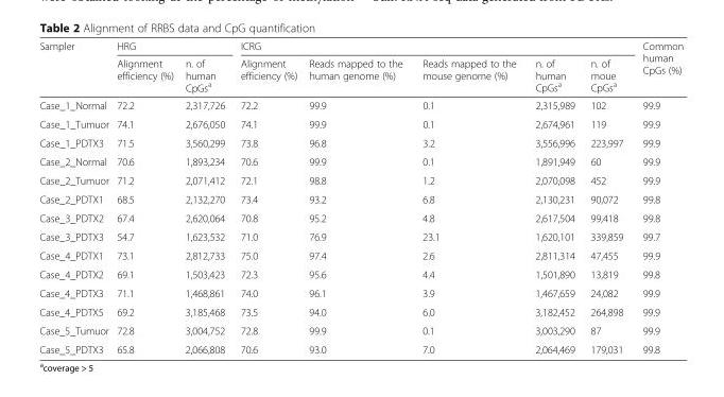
<table><thead><tr><td rowspan="2">Sampler</td><td colspan="2">HRG</td><td colspan="5">ICRG</td><td rowspan="2">Common human CpGs (%)</td></tr><tr><td>Alignment efficiency (%)</td><td>n. of human CpGs<sup>a</sup></td><td>Alignment efficiency (%)</td><td>Reads mapped to the human genome (%)</td><td>Reads mapped to the mouse genome (%)</td><td>n. of human CpGs<sup>a</sup></td><td>n. of moue CpGs<sup>a</sup></td></tr></thead><tbody><tr><td>Case_1_Normal</td><td>72.2</td><td>2,317,726</td><td>72.2</td><td>99.9</td><td>0.1</td><td>2,315,989</td><td>102</td><td>99.9</td></tr><tr><td>Case_1_Tumuor</td><td>74.1</td><td>2,676,050</td><td>74.1</td><td>99.9</td><td>0.1</td><td>2,674,961</td><td>119</td><td>99.9</td></tr><tr><td>Case_1_PDTX3</td><td>71.5</td><td>3,560,299</td><td>73.8</td><td>96.8</td><td>3.2</td><td>3,556,996</td><td>223,997</td><td>99.9</td></tr><tr><td>Case_2_Normal</td><td>70.6</td><td>1,893,234</td><td>70.6</td><td>99.9</td><td>0.1</td><td>1,891,949</td><td>60</td><td>99.9</td></tr><tr><td>Case_2_Tumuor</td><td>71.2</td><td>2,071,412</td><td>72.1</td><td>98.8</td><td>1.2</td><td>2,070,098</td><td>452</td><td>99.9</td></tr><tr><td>Case_2_PDTX1</td><td>68.5</td><td>2,132,270</td><td>73.4</td><td>93.2</td><td>6.8</td><td>2,130,231</td><td>90,072</td><td>99.8</td></tr><tr><td>Case_3_PDTX2</td><td>67.4</td><td>2,620,064</td><td>70.8</td><td>95.2</td><td>4.8</td><td>2,617,504</td><td>99,418</td><td>99.8</td></tr><tr><td>Case_3_PDTX3</td><td>54.7</td><td>1,623,532</td><td>71.0</td><td>76.9</td><td>23.1</td><td>1,620,101</td><td>339,859</td><td>99.7</td></tr><tr><td>Case_4_PDTX1</td><td>73.1</td><td>2,812,733</td><td>75.0</td><td>97.4</td><td>2.6</td><td>2,811,314</td><td>47,455</td><td>99.9</td></tr><tr><td>Case_4_PDTX2</td><td>69.1</td><td>1,503,423</td><td>72.3</td><td>95.6</td><td>4.4</td><td>1,501,890</td><td>13,819</td><td>99.8</td></tr><tr><td>Case_4_PDTX3</td><td>71.1</td><td>1,468,861</td><td>74.0</td><td>96.1</td><td>3.9</td><td>1,467,659</td><td>24,082</td><td>99.9</td></tr><tr><td>Case_4_PDTX5</td><td>69.2</td><td>3,185,468</td><td>73.5</td><td>94.0</td><td>6.0</td><td>3,182,452</td><td>264,898</td><td>99.9</td></tr><tr><td>Case_5_Tumuor</td><td>72.8</td><td>3,004,752</td><td>72.8</td><td>99.9</td><td>0.1</td><td>3,003,290</td><td>87</td><td>99.9</td></tr><tr><td>Case_5_PDTX3</td><td>65.8</td><td>2,066,808</td><td>70.6</td><td>93.0</td><td>7.0</td><td>2,064,469</td><td>179,031</td><td>99.8</td></tr></tbody></table>